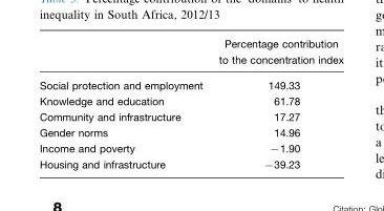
<table><thead><tr><td></td><td>Percentage contribution to the concentration index</td></tr></thead><tbody><tr><td>Social protection and employment</td><td>149.33</td></tr><tr><td>Knowledge and education</td><td>61.78</td></tr><tr><td>Community and infrastructure</td><td>17.27</td></tr><tr><td>Gender norms</td><td>14.96</td></tr><tr><td>Income and poverty</td><td>−1.90</td></tr><tr><td>Housing and infrastructure</td><td>−39.23</td></tr></tbody></table>